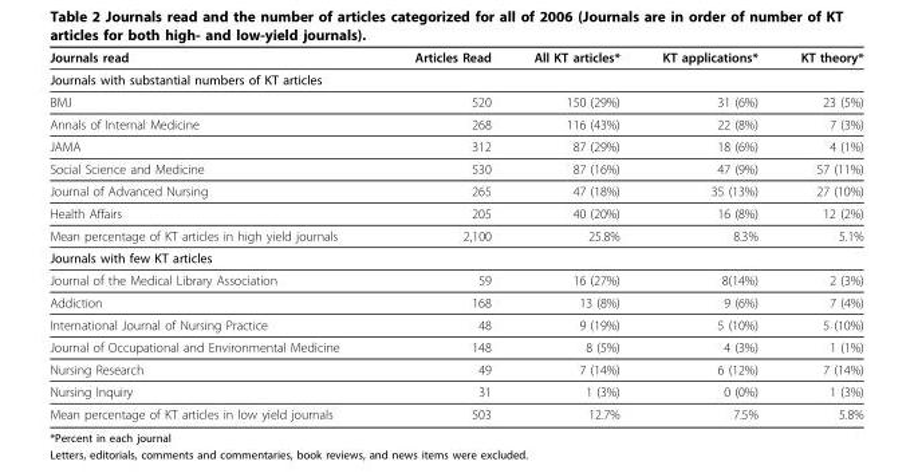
<table><thead><tr><td>Journals read</td><td>Articles Read</td><td>All KT articles*</td><td>KT applications*</td><td>KT theory*</td></tr></thead><tbody><tr><td colspan="5">Journals with substantial numbers of KT articles</td></tr><tr><td>BMJ</td><td>520</td><td>150 (29%)</td><td>31 (6%)</td><td>23 (5%)</td></tr><tr><td>Annals of Internal Medicine</td><td>268</td><td>116 (43%)</td><td>22 (8%)</td><td>7 (3%)</td></tr><tr><td>JAMA</td><td>312</td><td>87 (29%)</td><td>18 (6%)</td><td>4 (1%)</td></tr><tr><td>Social Science and Medicine</td><td>530</td><td>87 (16%)</td><td>47 (9%)</td><td>57 (11%)</td></tr><tr><td>Journal of Advanced Nursing</td><td>265</td><td>47 (18%)</td><td>35 (13%)</td><td>27 (10%)</td></tr><tr><td>Health Affairs</td><td>205</td><td>40 (20%)</td><td>16 (8%)</td><td>12 (2%)</td></tr><tr><td>Mean percentage of KT articles in high yield journals</td><td>2,100</td><td>25.8%</td><td>8.3%</td><td>5.1%</td></tr><tr><td colspan="5">Journals with few KT articles</td></tr><tr><td>Journal of the Medical Library Association</td><td>59</td><td>16 (27%)</td><td>8(14%)</td><td>2 (3%)</td></tr><tr><td>Addiction</td><td>168</td><td>13 (8%)</td><td>9 (6%)</td><td>7 (4%)</td></tr><tr><td>International Journal of Nursing Practice</td><td>48</td><td>9 (19%)</td><td>5 (10%)</td><td>5 (10%)</td></tr><tr><td>Journal of Occupational and Environmental Medicine</td><td>148</td><td>8 (5%)</td><td>4 (3%)</td><td>1 (1%)</td></tr><tr><td>Nursing Research</td><td>49</td><td>7 (14%)</td><td>6 (12%)</td><td>7 (14%)</td></tr><tr><td>Nursing Inquiry</td><td>31</td><td>1 (3%)</td><td>0 (0%)</td><td>1 (3%)</td></tr><tr><td>Mean percentage of KT articles in low yield journals</td><td>503</td><td>12.7%</td><td>7.5%</td><td>5.8%</td></tr></tbody></table>